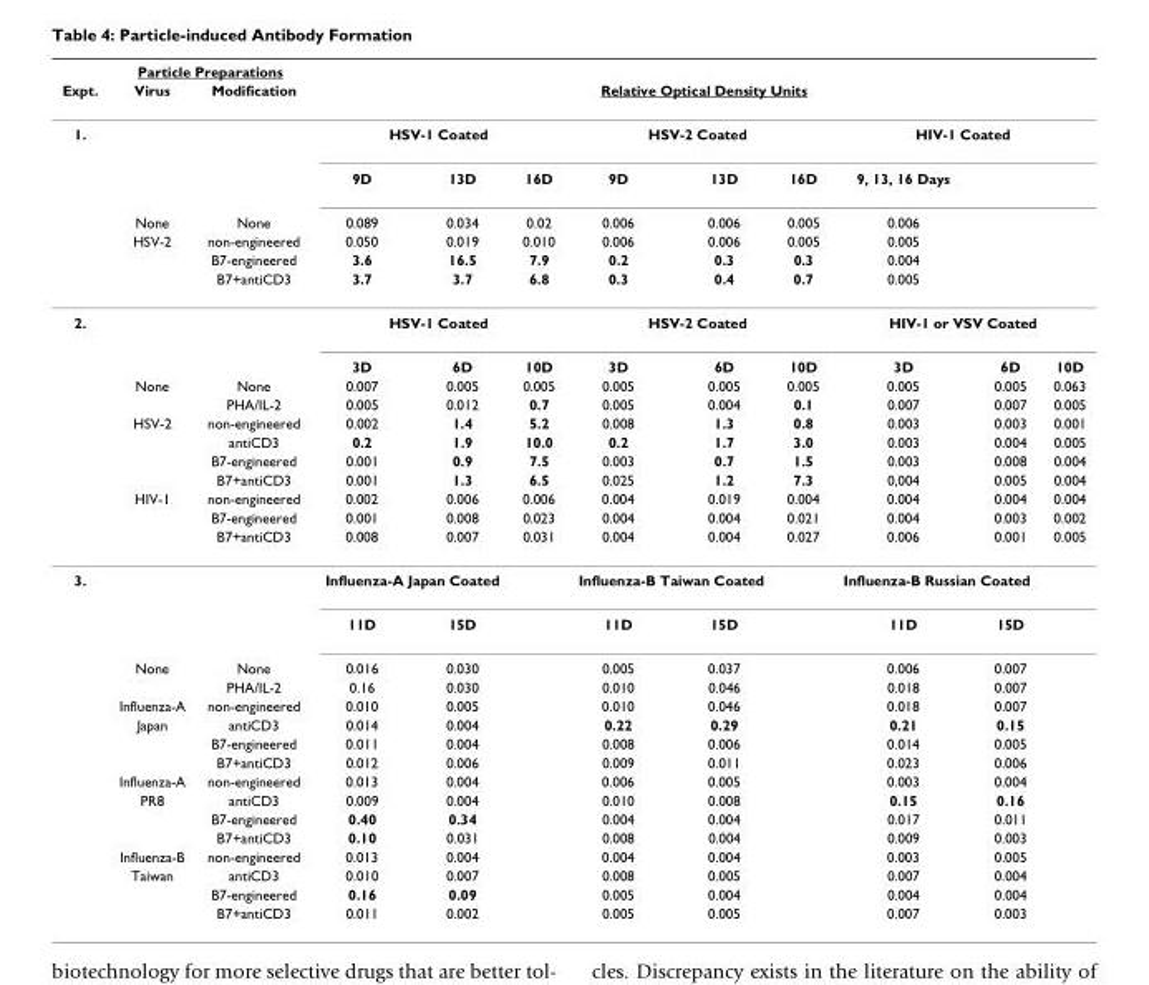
<table><thead><tr><td rowspan="2">Expt.</td><td colspan="2">Particle Preparations</td><td></td><td></td><td></td><td></td><td></td><td></td><td></td><td></td><td></td></tr><tr><td>Virus</td><td>Modification</td><td colspan="9">Relative Optical Density Units</td></tr></thead><tbody><tr><td rowspan="6">1.</td><td></td><td></td><td colspan="3">HSV-1 Coated</td><td colspan="3">HSV-2 Coated</td><td colspan="3">HIV-1 Coated</td></tr><tr><td></td><td></td><td>9D</td><td>13D</td><td>16D</td><td>9D</td><td>13D</td><td>16D</td><td>9, 13, 16 Days</td><td></td><td></td></tr><tr><td>None</td><td>None</td><td>0.089</td><td>0.034</td><td>0.02</td><td>0.006</td><td>0.006</td><td>0.005</td><td>0.006</td><td></td><td></td></tr><tr><td>HSV-2</td><td>non-engineered</td><td>0.050</td><td>0.019</td><td>0.010</td><td>0.006</td><td>0.006</td><td>0.005</td><td>0.005</td><td></td><td></td></tr><tr><td></td><td>B7-engineered</td><td>3.6</td><td>16.5</td><td>7.9</td><td>0.2</td><td>0.3</td><td>0.3</td><td>0.004</td><td></td><td></td></tr><tr><td></td><td>B7+antiCD3</td><td>3.7</td><td>3.7</td><td>6.8</td><td>0.3</td><td>0.4</td><td>0.7</td><td>0.005</td><td></td><td></td></tr><tr><td rowspan="11">2.</td><td></td><td></td><td colspan="3">HSV-1 Coated</td><td colspan="3">HSV-2 Coated</td><td colspan="3">HIV-1 or VSV Coated</td></tr><tr><td></td><td></td><td>3D</td><td>6D</td><td>10D</td><td>3D</td><td>6D</td><td>10D</td><td>3D</td><td>6D</td><td>10D</td></tr><tr><td>None</td><td>None</td><td>0.007</td><td>0.005</td><td>0.005</td><td>0.005</td><td>0.005</td><td>0.005</td><td>0.005</td><td>0.005</td><td>0.063</td></tr><tr><td></td><td>PHA/IL-2</td><td>0.005</td><td>0.012</td><td>0.7</td><td>0.005</td><td>0.004</td><td>0.1</td><td>0.007</td><td>0.007</td><td>0.005</td></tr><tr><td>HSV-2</td><td>non-engineered</td><td>0.002</td><td>1.4</td><td>5.2</td><td>0.008</td><td>1.3</td><td>0.8</td><td>0.003</td><td>0.003</td><td>0.001</td></tr><tr><td></td><td>antiCD3</td><td>0.2</td><td>1.9</td><td>10.0</td><td>0.2</td><td>1.7</td><td>3.0</td><td>0.003</td><td>0.004</td><td>0.005</td></tr><tr><td></td><td>B7-engineered</td><td>0.001</td><td>0.9</td><td>7.5</td><td>0.003</td><td>0.7</td><td>1.5</td><td>0.003</td><td>0.008</td><td>0.004</td></tr><tr><td></td><td>B7+antiCD3</td><td>0.001</td><td>1.3</td><td>6.5</td><td>0.025</td><td>1.2</td><td>7.3</td><td>0,004</td><td>0.005</td><td>0.004</td></tr><tr><td>HIV-1</td><td>non-engineered</td><td>0.002</td><td>0.006</td><td>0.006</td><td>0.004</td><td>0.019</td><td>0.004</td><td>0.004</td><td>0.004</td><td>0.004</td></tr><tr><td></td><td>B7-engineered</td><td>0.001</td><td>0.008</td><td>0.023</td><td>0.004</td><td>0.004</td><td>0.021</td><td>0.004</td><td>0.003</td><td>0.002</td></tr><tr><td></td><td>B7+antiCD3</td><td>0.008</td><td>0.007</td><td>0.031</td><td>0.004</td><td>0.004</td><td>0.027</td><td>0.006</td><td>0.001</td><td>0.005</td></tr><tr><td rowspan="16">3.</td><td></td><td></td><td colspan="2">Influenza-A Japan Coated</td><td></td><td colspan="2">Influenza-B Taiwan Coated</td><td></td><td colspan="2">Influenza-B Russian Coated</td><td></td></tr><tr><td></td><td></td><td>11D</td><td>15D</td><td></td><td>11D</td><td>15D</td><td></td><td>11D</td><td>15D</td><td></td></tr><tr><td>None</td><td>None</td><td>0.016</td><td>0.030</td><td></td><td>0.005</td><td>0.037</td><td></td><td>0.006</td><td>0.007</td><td></td></tr><tr><td></td><td>PHA/IL-2</td><td>0.16</td><td>0.030</td><td></td><td>0.010</td><td>0.046</td><td></td><td>0.018</td><td>0.007</td><td></td></tr><tr><td>Influenza-A</td><td>non-engineered</td><td>0.010</td><td>0.005</td><td></td><td>0.010</td><td>0.046</td><td></td><td>0.018</td><td>0.007</td><td></td></tr><tr><td>Japan</td><td>antiCD3</td><td>0.014</td><td>0.004</td><td></td><td>0.22</td><td>0.29</td><td></td><td>0.21</td><td>0.15</td><td></td></tr><tr><td></td><td>B7-engineered</td><td>0.011</td><td>0.004</td><td></td><td>0.008</td><td>0.006</td><td></td><td>0.014</td><td>0.005</td><td></td></tr><tr><td></td><td>B7+antiCD3</td><td>0.012</td><td>0.006</td><td></td><td>0.009</td><td>0.011</td><td></td><td>0.023</td><td>0.006</td><td></td></tr><tr><td>Influenza-A</td><td>non-engineered</td><td>0.013</td><td>0.004</td><td></td><td>0.006</td><td>0.005</td><td></td><td>0.003</td><td>0.004</td><td></td></tr><tr><td>PR8</td><td>antiCD3</td><td>0.009</td><td>0.004</td><td></td><td>0.010</td><td>0.008</td><td></td><td>0.15</td><td>0.16</td><td></td></tr><tr><td></td><td>B7-engineered</td><td>0.40</td><td>0.34</td><td></td><td>0.004</td><td>0.004</td><td></td><td>0.017</td><td>0.011</td><td></td></tr><tr><td></td><td>B7+antiCD3</td><td>0.10</td><td>0.031</td><td></td><td>0.008</td><td>0.004</td><td></td><td>0.009</td><td>0.003</td><td></td></tr><tr><td>Influenza-B</td><td>non-engineered</td><td>0.013</td><td>0.004</td><td></td><td>0.004</td><td>0.004</td><td></td><td>0.003</td><td>0.005</td><td></td></tr><tr><td>Taiwan</td><td>antiCD3</td><td>0.010</td><td>0.007</td><td></td><td>0.008</td><td>0.005</td><td></td><td>0.007</td><td>0.004</td><td></td></tr><tr><td></td><td>B7-engineered</td><td>0.16</td><td>0.09</td><td></td><td>0.005</td><td>0.004</td><td></td><td>0.004</td><td>0.004</td><td></td></tr><tr><td></td><td>B7+antiCD3</td><td>0.011</td><td>0.002</td><td></td><td>0.005</td><td>0.005</td><td></td><td>0.007</td><td>0.003</td><td></td></tr></tbody></table>